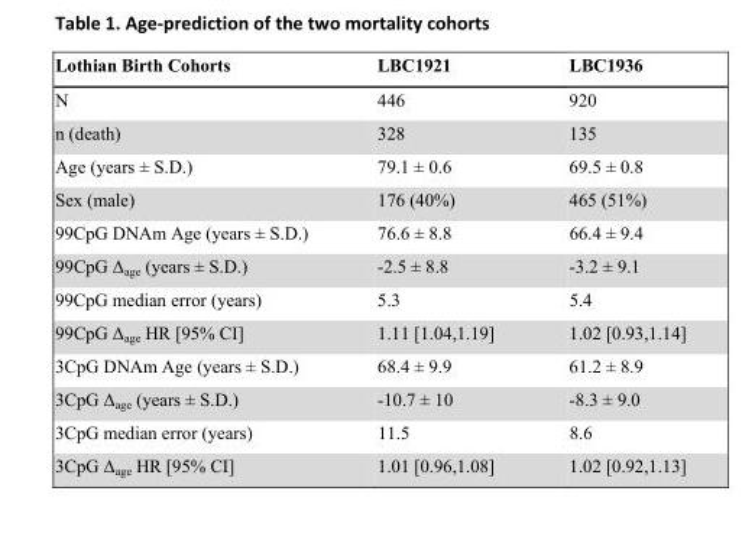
<table><thead><tr><td>Lothian Birth Cohorts</td><td>LBC1921</td><td>LBC1936</td></tr></thead><tbody><tr><td>N</td><td>446</td><td>920</td></tr><tr><td>n (death)</td><td>328</td><td>135</td></tr><tr><td>Age (years ± S.D.)</td><td>79.1 ± 0.6</td><td>69.5 ± 0.8</td></tr><tr><td>Sex (male)</td><td>176 (40%)</td><td>465 (51%)</td></tr><tr><td>99CpG DNAm Age (years ± S.D.)</td><td>76.6 ± 8.8</td><td>66.4 ± 9.4</td></tr><tr><td>99CpG Δ<sub>age</sub> (years ± S.D.)</td><td>-2.5 ± 8.8</td><td>-3.2 ± 9.1</td></tr><tr><td>99CpG median error (years)</td><td>5.3</td><td>5.4</td></tr><tr><td>99CpG Δ<sub>age</sub> HR [95% CI]</td><td>1.11 [1.04,1.19]</td><td>1.02 [0.93,1.14]</td></tr><tr><td>3CpG DNAm Age (years ± S.D.)</td><td>68.4 ± 9.9</td><td>61.2 ± 8.9</td></tr><tr><td>3CpG Δ<sub>age</sub> (years ± S.D.)</td><td>-10.7 ± 10</td><td>-8.3 ± 9.0</td></tr><tr><td>3CpG median error (years)</td><td>11.5</td><td>8.6</td></tr><tr><td>3CpG Δ<sub>age</sub> HR [95% CI]</td><td>1.01 [0.96,1.08]</td><td>1.02 [0.92,1.13]</td></tr></tbody></table>